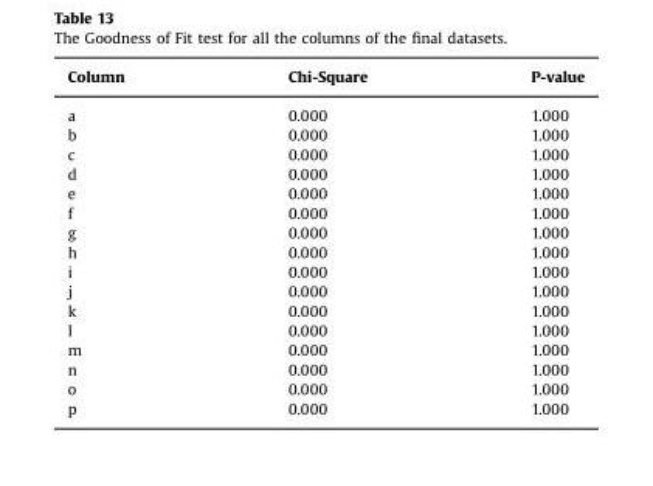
<table><thead><tr><td>Column</td><td>Chi-Square</td><td>P-value</td></tr></thead><tbody><tr><td>a</td><td>0.000</td><td>1.000</td></tr><tr><td>b</td><td>0.000</td><td>1.000</td></tr><tr><td>c</td><td>0.000</td><td>1.000</td></tr><tr><td>d</td><td>0.000</td><td>1.000</td></tr><tr><td>e</td><td>0.000</td><td>1.000</td></tr><tr><td>f</td><td>0.000</td><td>1.000</td></tr><tr><td>g</td><td>0.000</td><td>1.000</td></tr><tr><td>h</td><td>0.000</td><td>1.000</td></tr><tr><td>i</td><td>0.000</td><td>1.000</td></tr><tr><td>j</td><td>0.000</td><td>1.000</td></tr><tr><td>k</td><td>0.000</td><td>1.000</td></tr><tr><td>l</td><td>0.000</td><td>1.000</td></tr><tr><td>m</td><td>0.000</td><td>1.000</td></tr><tr><td>n</td><td>0.000</td><td>1.000</td></tr><tr><td>o</td><td>0.000</td><td>1.000</td></tr><tr><td>p</td><td>0.000</td><td>1.000</td></tr></tbody></table>